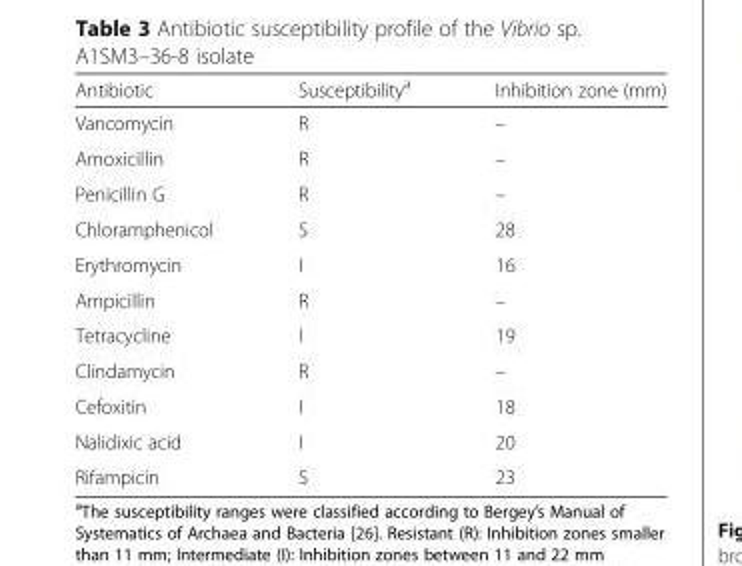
<table><thead><tr><td>Antibiotic</td><td>Susceptibility<sup>a</sup></td><td>Inhibition zone (mm)</td></tr></thead><tbody><tr><td>Vancomycin</td><td>R</td><td>–</td></tr><tr><td>Amoxicillin</td><td>R</td><td>–</td></tr><tr><td>Penicillin G</td><td>R</td><td>–</td></tr><tr><td>Chloramphenicol</td><td>S</td><td>28</td></tr><tr><td>Erythromycin</td><td>I</td><td>16</td></tr><tr><td>Ampicillin</td><td>R</td><td>–</td></tr><tr><td>Tetracycline</td><td>I</td><td>19</td></tr><tr><td>Clindamycin</td><td>R</td><td>–</td></tr><tr><td>Cefoxitin</td><td>I</td><td>18</td></tr><tr><td>Nalidixic acid</td><td>I</td><td>20</td></tr><tr><td>Rifampicin</td><td>S</td><td>23</td></tr></tbody></table>